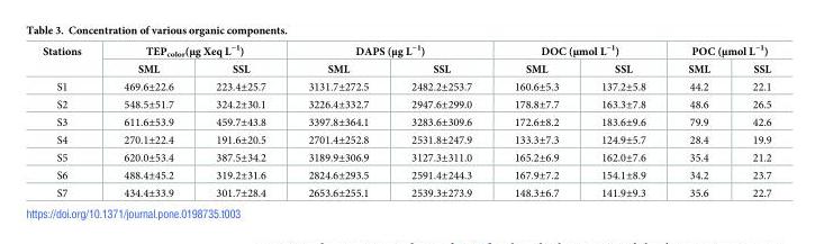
<table><thead><tr><td rowspan="2">Stations</td><td colspan="2">TEP<sub>color</sub>(μg Xeq L<sup>−1</sup>)</td><td colspan="2">DAPS (μg L<sup>−1</sup>)</td><td colspan="2">DOC (μmol L<sup>−1</sup>)</td><td colspan="2">POC (μmol L<sup>−1</sup>)</td></tr><tr><td>SML</td><td>SSL</td><td>SML</td><td>SSL</td><td>SML</td><td>SSL</td><td>SML</td><td>SSL</td></tr></thead><tbody><tr><td>S1</td><td>469.6±22.6</td><td>223.4±25.7</td><td>3131.7±272.5</td><td>2482.2±253.7</td><td>160.6±5.3</td><td>137.2±5.8</td><td>44.2</td><td>22.1</td></tr><tr><td>S2</td><td>548.5±51.7</td><td>324.2±30.1</td><td>3226.4±332.7</td><td>2947.6±299.0</td><td>178.8±7.7</td><td>163.3±7.8</td><td>48.6</td><td>26.5</td></tr><tr><td>S3</td><td>611.6±53.9</td><td>459.7±43.8</td><td>3397.8±364.1</td><td>3283.6±309.6</td><td>172.6±8.2</td><td>183.6±9.6</td><td>79.9</td><td>42.6</td></tr><tr><td>S4</td><td>270.1±22.4</td><td>191.6±20.5</td><td>2701.4±252.8</td><td>2531.8±247.9</td><td>133.3±7.3</td><td>124.9±5.7</td><td>28.4</td><td>19.9</td></tr><tr><td>S5</td><td>620.0±53.4</td><td>387.5±34.2</td><td>3189.9±306.9</td><td>3127.3±311.0</td><td>165.2±6.9</td><td>162.0±7.6</td><td>35.4</td><td>21.2</td></tr><tr><td>S6</td><td>488.4±45.2</td><td>319.2±31.6</td><td>2824.6±293.5</td><td>2591.4±244.3</td><td>167.9±7.2</td><td>154.1±8.9</td><td>34.2</td><td>23.7</td></tr><tr><td>S7</td><td>434.4±33.9</td><td>301.7±28.4</td><td>2653.6±255.1</td><td>2539.3±273.9</td><td>148.3±6.7</td><td>141.9±9.3</td><td>35.6</td><td>22.7</td></tr></tbody></table>